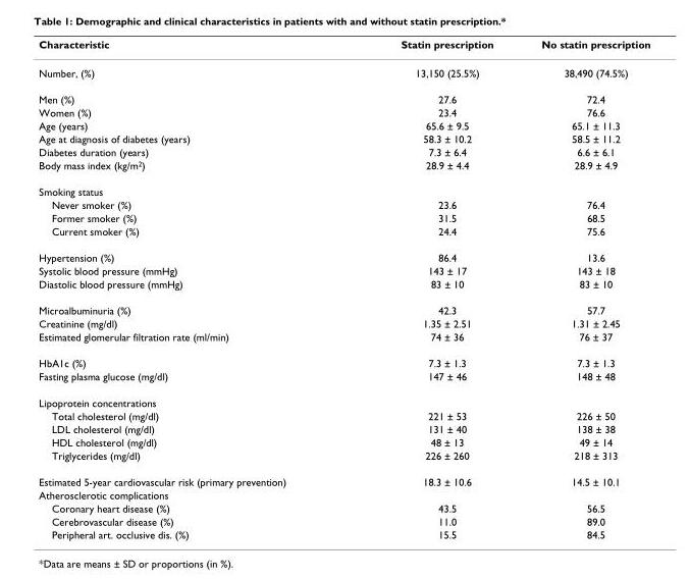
<table><thead><tr><td>Characteristic</td><td>Statin prescription</td><td>No statin prescription</td></tr></thead><tbody><tr><td>Number, (%)</td><td>13,150 (25.5%)</td><td>38,490 (74.5%)</td></tr><tr><td>Men (%)</td><td>27.6</td><td>72.4</td></tr><tr><td>Women (%)</td><td>23.4</td><td>76.6</td></tr><tr><td>Age (years)</td><td>65.6 ± 9.5</td><td>65.1 ± 11.3</td></tr><tr><td>Age at diagnosis of diabetes (years)</td><td>58.3 ± 10.2</td><td>58.5 ± 11.2</td></tr><tr><td>Diabetes duration (years)</td><td>7.3 ± 6.4</td><td>6.6 ± 6.1</td></tr><tr><td>Body mass index (kg/m<sup>2</sup>)</td><td>28.9 ± 4.4</td><td>28.9 ± 4.9</td></tr><tr><td colspan="3">Smoking status</td></tr><tr><td>Never smoker (%)</td><td>23.6</td><td>76.4</td></tr><tr><td>Former smoker (%)</td><td>31.5</td><td>68.5</td></tr><tr><td>Current smoker (%)</td><td>24.4</td><td>75.6</td></tr><tr><td>Hypertension (%)</td><td>86.4</td><td>13.6</td></tr><tr><td>Systolic blood pressure (mmHg)</td><td>143 ± 17</td><td>143 ± 18</td></tr><tr><td>Diastolic blood pressure (mmHg)</td><td>83 ± 10</td><td>83 ± 10</td></tr><tr><td>Microalbuminuria (%)</td><td>42.3</td><td>57.7</td></tr><tr><td>Creatinine (mg/dl)</td><td>1.35 ± 2.51</td><td>1.31 ± 2.45</td></tr><tr><td>Estimated glomerular filtration rate (ml/min)</td><td>74 ± 36</td><td>76 ± 37</td></tr><tr><td>HbA1c (%)</td><td>7.3 ± 1.3</td><td>7.3 ± 1.3</td></tr><tr><td>Fasting plasma glucose (mg/dl)</td><td>147 ± 46</td><td>148 ± 48</td></tr><tr><td colspan="3">Lipoprotein concentrations</td></tr><tr><td>Total cholesterol (mg/dl)</td><td>221 ± 53</td><td>226 ± 50</td></tr><tr><td>LDL cholesterol (mg/dl)</td><td>131 ± 40</td><td>138 ± 38</td></tr><tr><td>HDL cholesterol (mg/dl)</td><td>48 ± 13</td><td>49 ± 14</td></tr><tr><td>Triglycerides (mg/dl)</td><td>226 ± 260</td><td>218 ± 313</td></tr><tr><td>Estimated 5-year cardiovascular risk (primary prevention)</td><td>18.3 ± 10.6</td><td>14.5 ± 10.1</td></tr><tr><td colspan="3">Atherosclerotic complications</td></tr><tr><td>Coronary heart disease (%)</td><td>43.5</td><td>56.5</td></tr><tr><td>Cerebrovascular disease (%)</td><td>11.0</td><td>89.0</td></tr><tr><td>Peripheral art. occlusive dis. (%)</td><td>15.5</td><td>84.5</td></tr></tbody></table>